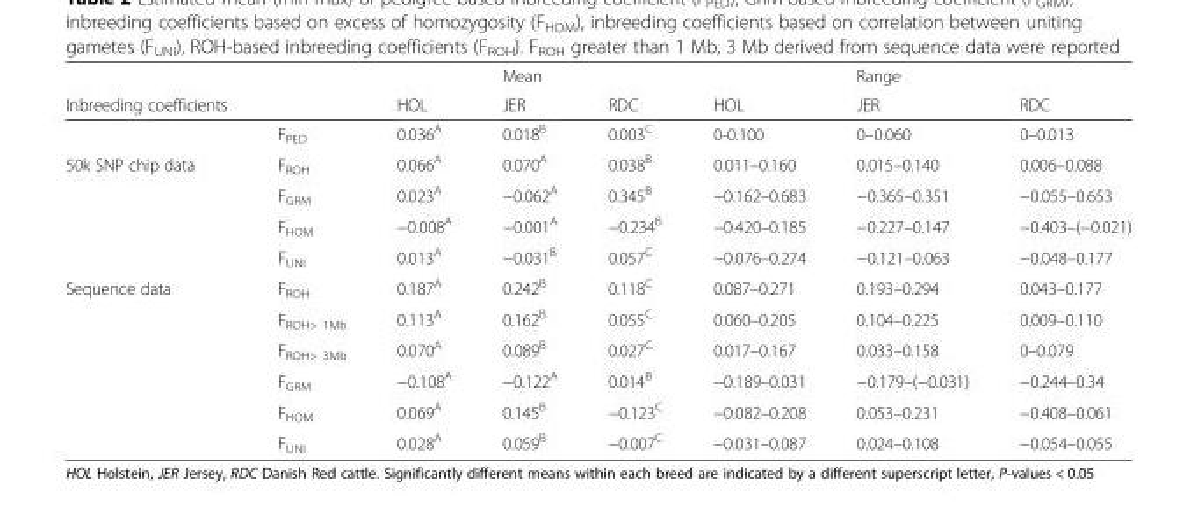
<table><thead><tr><td rowspan="2">Inbreeding coefficients</td><td rowspan="2"></td><td rowspan="2">HOL</td><td rowspan="2">Mean JER</td><td rowspan="2">RDC</td><td rowspan="2">HOL</td><td rowspan="2">Range JER</td><td rowspan="2">RDC</td></tr><tr></tr></thead><tbody><tr><td></td><td>F<sub>PED</sub></td><td>0.036<sup>A</sup></td><td>0.018<sup>B</sup></td><td>0.003<sup>C</sup></td><td>0-0.100</td><td>0–0.060</td><td>0–0.013</td></tr><tr><td rowspan="4">50k SNP chip data</td><td>F<sub>ROH</sub></td><td>0.066<sup>A</sup></td><td>0.070<sup>A</sup></td><td>0.038<sup>B</sup></td><td>0.011–0.160</td><td>0.015–0.140</td><td>0.006–0.088</td></tr><tr><td>F<sub>GRM</sub></td><td>0.023<sup>A</sup></td><td>−0.062<sup>A</sup></td><td>0.345<sup>B</sup></td><td>−0.162–0.683</td><td>−0.365–0.351</td><td>−0.055–0.653</td></tr><tr><td>F<sub>HOM</sub></td><td>−0.008<sup>A</sup></td><td>−0.001<sup>A</sup></td><td>−0.234<sup>B</sup></td><td>−0.420–0.185</td><td>−0.227–0.147</td><td>−0.403–(−0.021)</td></tr><tr><td>F<sub>UNI</sub></td><td>0.013<sup>A</sup></td><td>−0.031<sup>B</sup></td><td>0.057<sup>C</sup></td><td>−0.076–0.274</td><td>−0.121–0.063</td><td>−0.048–0.177</td></tr><tr><td rowspan="6">Sequence data</td><td>F<sub>ROH</sub></td><td>0.187<sup>A</sup></td><td>0.242<sup>B</sup></td><td>0.118<sup>C</sup></td><td>0.087–0.271</td><td>0.193–0.294</td><td>0.043–0.177</td></tr><tr><td>F<sub>ROH&gt; 1Mb</sub></td><td>0.113<sup>A</sup></td><td>0.162<sup>B</sup></td><td>0.055<sup>C</sup></td><td>0.060–0.205</td><td>0.104–0.225</td><td>0.009–0.110</td></tr><tr><td>F<sub>ROH&gt; 3Mb</sub></td><td>0.070<sup>A</sup></td><td>0.089<sup>B</sup></td><td>0.027<sup>C</sup></td><td>0.017–0.167</td><td>0.033–0.158</td><td>0–0.079</td></tr><tr><td>F<sub>GRM</sub></td><td>−0.108<sup>A</sup></td><td>−0.122<sup>A</sup></td><td>0.014<sup>B</sup></td><td>−0.189–0.031</td><td>−0.179–(−0.031)</td><td>−0.244–0.34</td></tr><tr><td>F<sub>HOM</sub></td><td>0.069<sup>A</sup></td><td>0.145<sup>B</sup></td><td>−0.123<sup>C</sup></td><td>−0.082–0.208</td><td>0.053–0.231</td><td>−0.408–0.061</td></tr><tr><td>F<sub>UNI</sub></td><td>0.028<sup>A</sup></td><td>0.059<sup>B</sup></td><td>−0.007<sup>C</sup></td><td>−0.031–0.087</td><td>0.024–0.108</td><td>−0.054–0.055</td></tr></tbody></table>